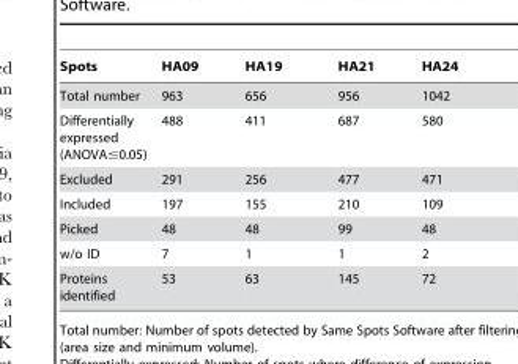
<table><thead><tr><td>Spots</td><td>HA09</td><td>HA19</td><td>HA21</td><td>HA24</td></tr></thead><tbody><tr><td>Total number</td><td>963</td><td>656</td><td>956</td><td>1042</td></tr><tr><td>Differentially expressed (ANOVA≤0.05)</td><td>488</td><td>411</td><td>687</td><td>580</td></tr><tr><td>Excluded</td><td>291</td><td>256</td><td>477</td><td>471</td></tr><tr><td>Included</td><td>197</td><td>155</td><td>210</td><td>109</td></tr><tr><td>Picked</td><td>48</td><td>48</td><td>99</td><td>48</td></tr><tr><td>w/o ID</td><td>7</td><td>1</td><td>1</td><td>2</td></tr><tr><td>Proteins identified</td><td>53</td><td>63</td><td>145</td><td>72</td></tr></tbody></table>